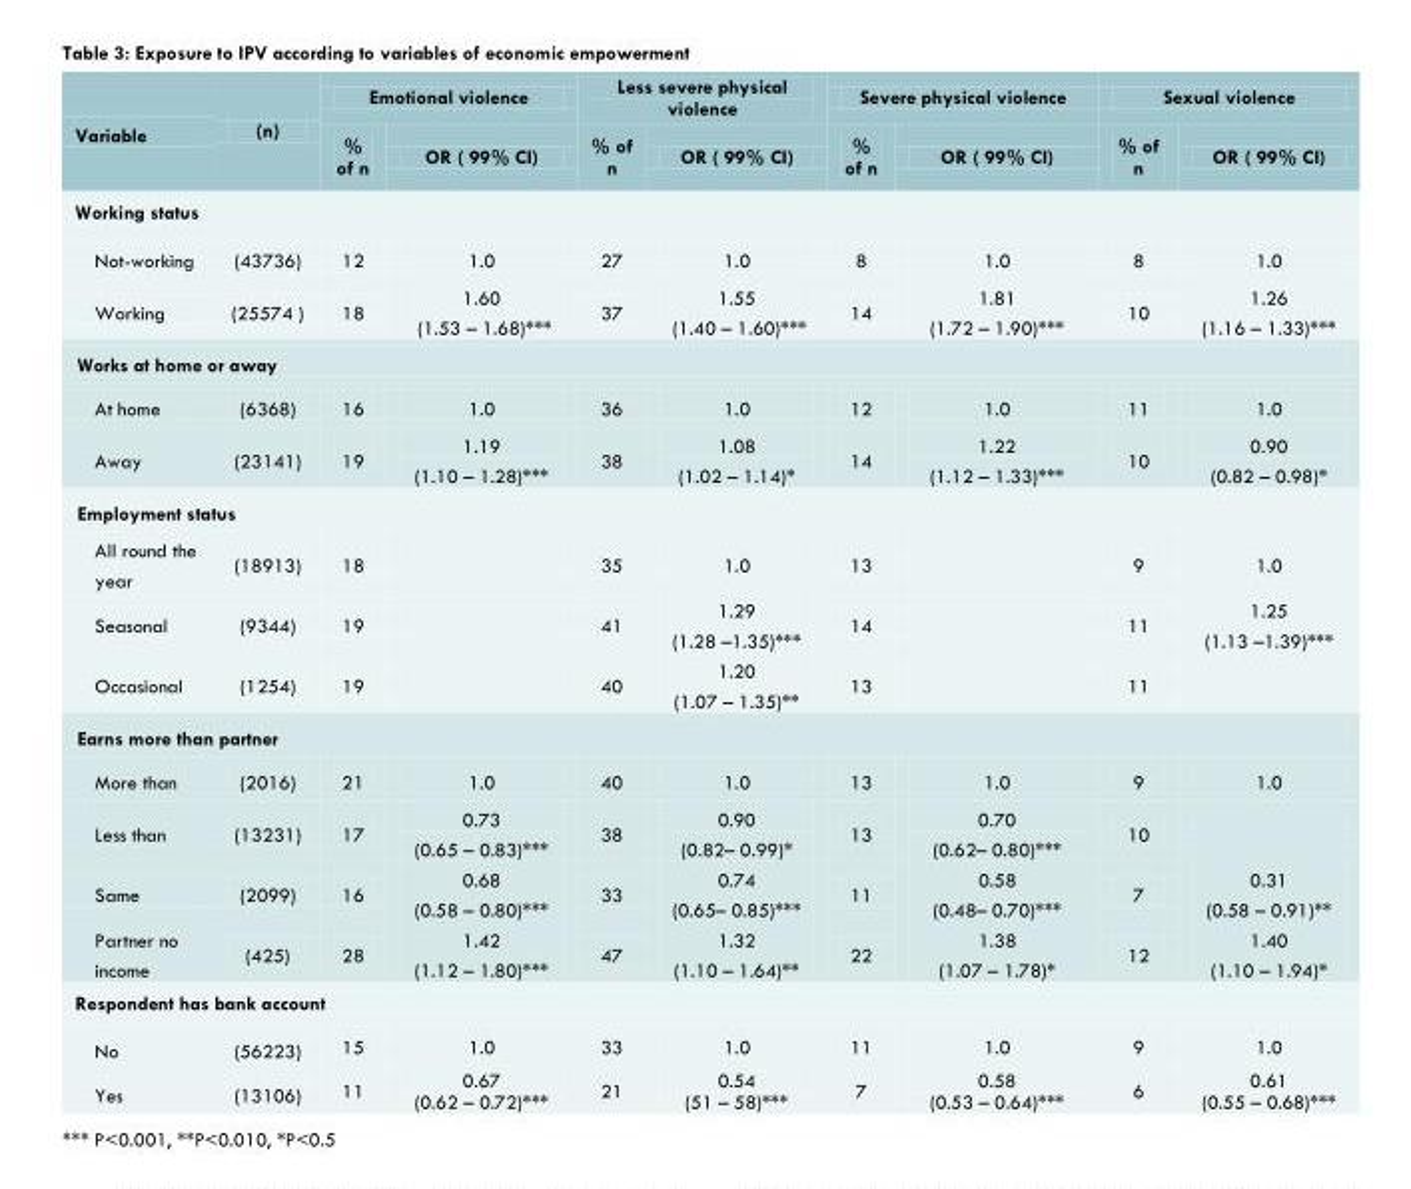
<table><thead><tr><td rowspan="2">Variable</td><td rowspan="2">(n)</td><td colspan="2">Emotional violence</td><td colspan="2">Less severe physical violence</td><td colspan="2">Severe physical violence</td><td colspan="2">Sexual violence</td></tr><tr><td>% of n</td><td>OR ( 99% CI)</td><td>% of n</td><td>OR ( 99% CI)</td><td>% of n</td><td>OR ( 99% CI)</td><td>% of n</td><td>OR ( 99% CI)</td></tr></thead><tbody><tr><td colspan="10">Working status</td></tr><tr><td>Not-working</td><td>(43736)</td><td>12</td><td>1.0</td><td>27</td><td>1.0</td><td>8</td><td>1.0</td><td>8</td><td>1.0</td></tr><tr><td>Working</td><td>(25574 )</td><td>18</td><td>1.60 (1.53 – 1.68)***</td><td>37</td><td>1.55 (1.40 – 1.60)***</td><td>14</td><td>1.81 (1.72 – 1.90)***</td><td>10</td><td>1.26 (1.16 – 1.33)***</td></tr><tr><td colspan="10">Works at home or away</td></tr><tr><td>At home</td><td>(6368)</td><td>16</td><td>1.0</td><td>36</td><td>1.0</td><td>12</td><td>1.0</td><td>11</td><td>1.0</td></tr><tr><td>Away</td><td>(23141)</td><td>19</td><td>1.19 (1.10 – 1.28)***</td><td>38</td><td>1.08 (1.02 – 1.14)*</td><td>14</td><td>1.22 (1.12 – 1.33)***</td><td>10</td><td>0.90 (0.82 – 0.98)*</td></tr><tr><td colspan="10">Employment status</td></tr><tr><td>All round the year</td><td>(18913)</td><td>18</td><td></td><td>35</td><td>1.0</td><td>13</td><td></td><td>9</td><td>1.0</td></tr><tr><td>Seasonal</td><td>(9344)</td><td>19</td><td></td><td>41</td><td>1.29 (1.28 –1.35)***</td><td>14</td><td></td><td>11</td><td>1.25 (1.13 –1.39)***</td></tr><tr><td>Occasional</td><td>(1254)</td><td>19</td><td></td><td>40</td><td>1.20 (1.07 – 1.35)**</td><td>13</td><td></td><td>11</td><td></td></tr><tr><td colspan="10">Earns more than partner</td></tr><tr><td>More than</td><td>(2016)</td><td>21</td><td>1.0</td><td>40</td><td>1.0</td><td>13</td><td>1.0</td><td>9</td><td>1.0</td></tr><tr><td>Less than</td><td>(13231)</td><td>17</td><td>0.73 (0.65 – 0.83)***</td><td>38</td><td>0.90 (0.82– 0.99)*</td><td>13</td><td>0.70 (0.62– 0.80)***</td><td>10</td><td></td></tr><tr><td>Same</td><td>(2099)</td><td>16</td><td>0.68 (0.58 – 0.80)***</td><td>33</td><td>0.74 (0.65– 0.85)***</td><td>11</td><td>0.58 (0.48– 0.70)***</td><td>7</td><td>0.31 (0.58 – 0.91)**</td></tr><tr><td>Partner no income</td><td>(425)</td><td>28</td><td>1.42 (1.12 – 1.80)***</td><td>47</td><td>1.32 (1.10 – 1.64)**</td><td>22</td><td>1.38 (1.07 – 1.78)*</td><td>12</td><td>1.40 (1.10 – 1.94)*</td></tr><tr><td colspan="10">Respondent has bank account</td></tr><tr><td>No</td><td>(56223)</td><td>15</td><td>1.0</td><td>33</td><td>1.0</td><td>11</td><td>1.0</td><td>9</td><td>1.0</td></tr><tr><td>Yes</td><td>(13106)</td><td>11</td><td>0.67 (0.62 – 0.72)***</td><td>21</td><td>0.54 (51 – 58)***</td><td>7</td><td>0.58 (0.53 – 0.64)***</td><td>6</td><td>0.61 (0.55 – 0.68)***</td></tr></tbody></table>